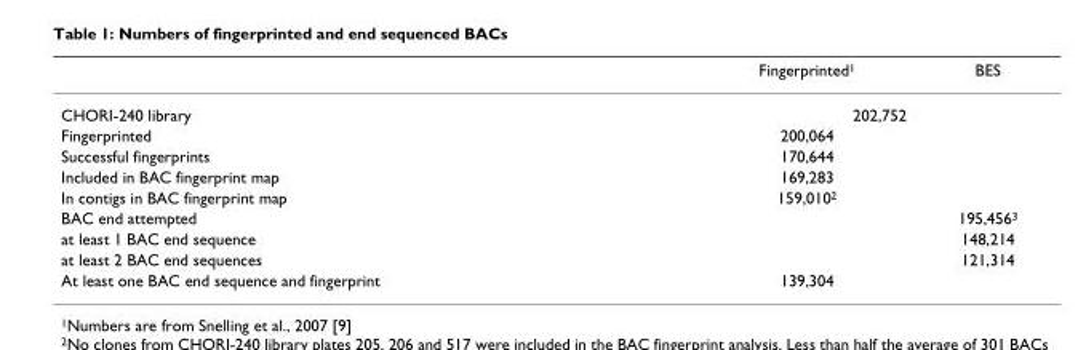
<table><thead><tr><td></td><td>Fingerprinted<sup>1</sup></td><td>BES</td></tr></thead><tbody><tr><td>CHORI-240 library</td><td colspan="2">202,752</td></tr><tr><td>Fingerprinted</td><td>200,064</td><td></td></tr><tr><td>Successful fingerprints</td><td>170,644</td><td></td></tr><tr><td>Included in BAC fingerprint map</td><td>169,283</td><td></td></tr><tr><td>In contigs in BAC fingerprint map</td><td>159,010<sup>2</sup></td><td></td></tr><tr><td>BAC end attempted</td><td></td><td>195,456<sup>3</sup></td></tr><tr><td>at least 1 BAC end sequence</td><td></td><td>148,214</td></tr><tr><td>at least 2 BAC end sequences</td><td></td><td>121,314</td></tr><tr><td>At least one BAC end sequence and fingerprint</td><td>139,304</td><td></td></tr></tbody></table>